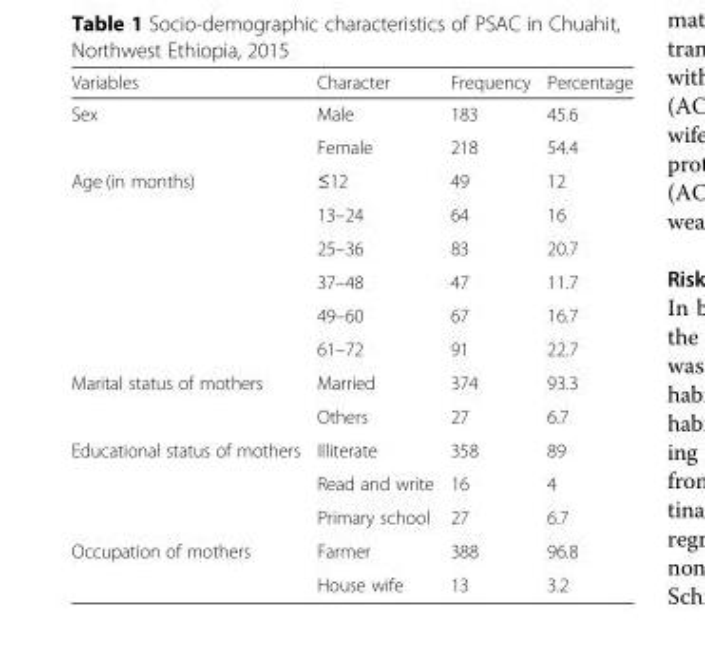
<table><thead><tr><td>Variables</td><td>Character</td><td>Frequency</td><td>Percentage</td></tr></thead><tbody><tr><td rowspan="2">Sex</td><td>Male</td><td>183</td><td>45.6</td></tr><tr><td>Female</td><td>218</td><td>54.4</td></tr><tr><td rowspan="6">Age (in months)</td><td>≤12</td><td>49</td><td>12</td></tr><tr><td>13–24</td><td>64</td><td>16</td></tr><tr><td>25–36</td><td>83</td><td>20.7</td></tr><tr><td>37–48</td><td>47</td><td>11.7</td></tr><tr><td>49–60</td><td>67</td><td>16.7</td></tr><tr><td>61–72</td><td>91</td><td>22.7</td></tr><tr><td rowspan="2">Marital status of mothers</td><td>Married</td><td>374</td><td>93.3</td></tr><tr><td>Others</td><td>27</td><td>6.7</td></tr><tr><td rowspan="3">Educational status of mothers</td><td>Illiterate</td><td>358</td><td>89</td></tr><tr><td>Read and write</td><td>16</td><td>4</td></tr><tr><td>Primary school</td><td>27</td><td>6.7</td></tr><tr><td rowspan="2">Occupation of mothers</td><td>Farmer</td><td>388</td><td>96.8</td></tr><tr><td>House wife</td><td>13</td><td>3.2</td></tr></tbody></table>